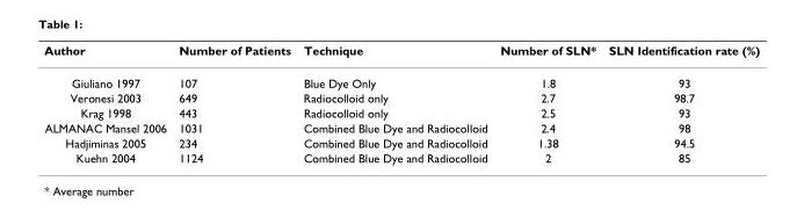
<table><thead><tr><td>Author</td><td>Number of Patients</td><td>Technique</td><td>Number of SLN*</td><td>SLN Identification rate (%)</td></tr></thead><tbody><tr><td>Giuliano 1997</td><td>107</td><td>Blue Dye Only</td><td>1.8</td><td>93</td></tr><tr><td>Veronesi 2003</td><td>649</td><td>Radiocolloid only</td><td>2.7</td><td>98.7</td></tr><tr><td>Krag 1998</td><td>443</td><td>Radiocolloid only</td><td>2.5</td><td>93</td></tr><tr><td>ALMANAC Mansel 2006</td><td>1031</td><td>Combined Blue Dye and Radiocolloid</td><td>2.4</td><td>98</td></tr><tr><td>Hadjiminas 2005</td><td>234</td><td>Combined Blue Dye and Radiocolloid</td><td>1.38</td><td>94.5</td></tr><tr><td>Kuehn 2004</td><td>1124</td><td>Combined Blue Dye and Radiocolloid</td><td>2</td><td>85</td></tr></tbody></table>